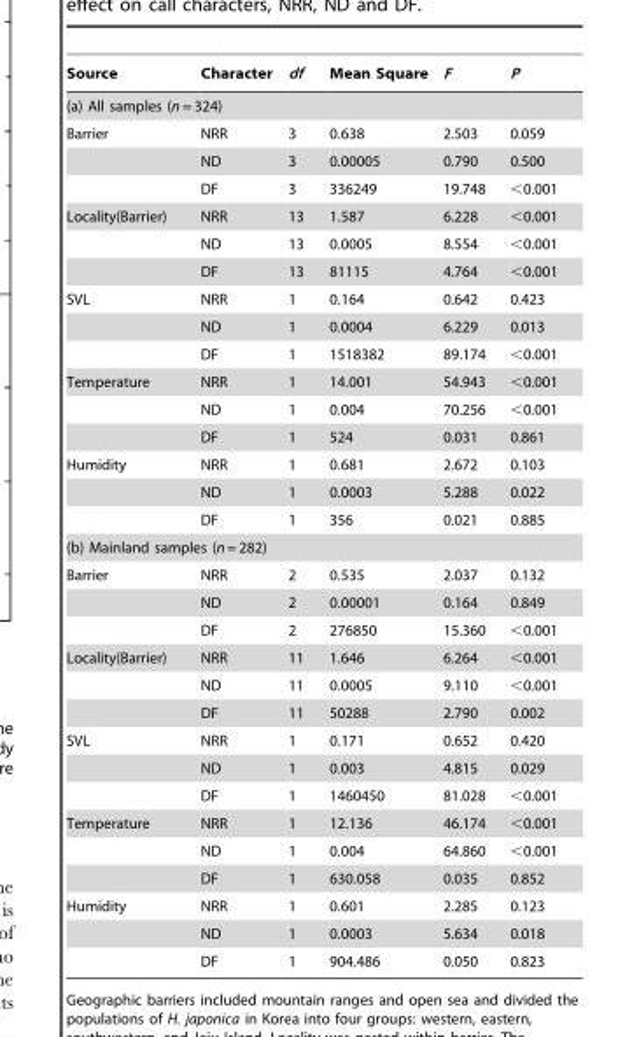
<table><thead><tr><td>Source</td><td>Character</td><td>df</td><td>Mean Square</td><td>F</td><td>P</td></tr></thead><tbody><tr><td colspan="6">(a) All samples (n = 324)</td></tr><tr><td rowspan="3">Barrier</td><td>NRR</td><td>3</td><td>0.638</td><td>2.503</td><td>0.059</td></tr><tr><td>ND</td><td>3</td><td>0.00005</td><td>0.790</td><td>0.500</td></tr><tr><td>DF</td><td>3</td><td>336249</td><td>19.748</td><td>&lt;0.001</td></tr><tr><td rowspan="3">Locality(Barrier)</td><td>NRR</td><td>13</td><td>1.587</td><td>6.228</td><td>&lt;0.001</td></tr><tr><td>ND</td><td>13</td><td>0.0005</td><td>8.554</td><td>&lt;0.001</td></tr><tr><td>DF</td><td>13</td><td>81115</td><td>4.764</td><td>&lt;0.001</td></tr><tr><td rowspan="3">SVL</td><td>NRR</td><td>1</td><td>0.164</td><td>0.642</td><td>0.423</td></tr><tr><td>ND</td><td>1</td><td>0.0004</td><td>6.229</td><td>0.013</td></tr><tr><td>DF</td><td>1</td><td>1518382</td><td>89.174</td><td>&lt;0.001</td></tr><tr><td rowspan="3">Temperature</td><td>NRR</td><td>1</td><td>14.001</td><td>54.943</td><td>&lt;0.001</td></tr><tr><td>ND</td><td>1</td><td>0.004</td><td>70.256</td><td>&lt;0.001</td></tr><tr><td>DF</td><td>1</td><td>524</td><td>0.031</td><td>0.861</td></tr><tr><td rowspan="3">Humidity</td><td>NRR</td><td>1</td><td>0.681</td><td>2.672</td><td>0.103</td></tr><tr><td>ND</td><td>1</td><td>0.0003</td><td>5.288</td><td>0.022</td></tr><tr><td>DF</td><td>1</td><td>356</td><td>0.021</td><td>0.885</td></tr><tr><td colspan="6">(b) Mainland samples (n = 282)</td></tr><tr><td rowspan="3">Barrier</td><td>NRR</td><td>2</td><td>0.535</td><td>2.037</td><td>0.132</td></tr><tr><td>ND</td><td>2</td><td>0.00001</td><td>0.164</td><td>0.849</td></tr><tr><td>DF</td><td>2</td><td>276850</td><td>15.360</td><td>&lt;0.001</td></tr><tr><td rowspan="3">Locality(Barrier)</td><td>NRR</td><td>11</td><td>1.646</td><td>6.264</td><td>&lt;0.001</td></tr><tr><td>ND</td><td>11</td><td>0.0005</td><td>9.110</td><td>&lt;0.001</td></tr><tr><td>DF</td><td>11</td><td>50288</td><td>2.790</td><td>0.002</td></tr><tr><td rowspan="3">SVL</td><td>NRR</td><td>1</td><td>0.171</td><td>0.652</td><td>0.420</td></tr><tr><td>ND</td><td>1</td><td>0.003</td><td>4.815</td><td>0.029</td></tr><tr><td>DF</td><td>1</td><td>1460450</td><td>81.028</td><td>&lt;0.001</td></tr><tr><td rowspan="3">Temperature</td><td>NRR</td><td>1</td><td>12.136</td><td>46.174</td><td>&lt;0.001</td></tr><tr><td>ND</td><td>1</td><td>0.004</td><td>64.860</td><td>&lt;0.001</td></tr><tr><td>DF</td><td>1</td><td>630.058</td><td>0.035</td><td>0.852</td></tr><tr><td rowspan="3">Humidity</td><td>NRR</td><td>1</td><td>0.601</td><td>2.285</td><td>0.123</td></tr><tr><td>ND</td><td>1</td><td>0.0003</td><td>5.634</td><td>0.018</td></tr><tr><td>DF</td><td>1</td><td>904.486</td><td>0.050</td><td>0.823</td></tr></tbody></table>